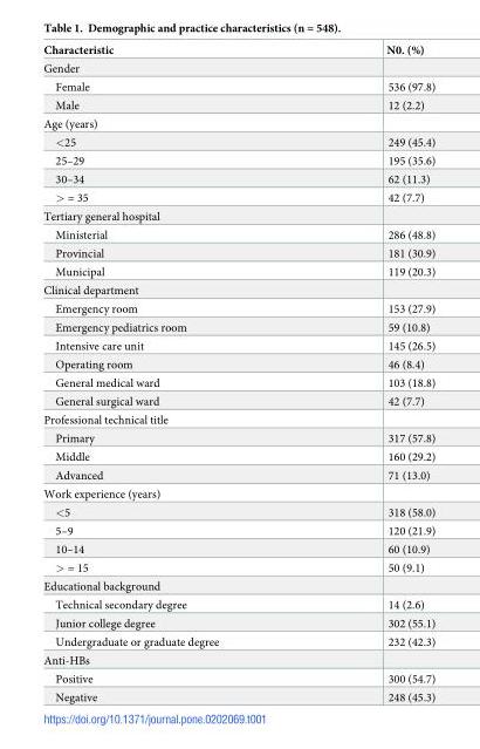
<table><thead><tr><td>Characteristic</td><td>N0. (%)</td></tr></thead><tbody><tr><td colspan="2">Gender</td></tr><tr><td>Female</td><td>536 (97.8)</td></tr><tr><td>Male</td><td>12 (2.2)</td></tr><tr><td colspan="2">Age (years)</td></tr><tr><td>&lt;25</td><td>249 (45.4)</td></tr><tr><td>25–29</td><td>195 (35.6)</td></tr><tr><td>30–34</td><td>62 (11.3)</td></tr><tr><td>&gt; = 35</td><td>42 (7.7)</td></tr><tr><td colspan="2">Tertiary general hospital</td></tr><tr><td>Ministerial</td><td>286 (48.8)</td></tr><tr><td>Provincial</td><td>181 (30.9)</td></tr><tr><td>Municipal</td><td>119 (20.3)</td></tr><tr><td colspan="2">Clinical department</td></tr><tr><td>Emergency room</td><td>153 (27.9)</td></tr><tr><td>Emergency pediatrics room</td><td>59 (10.8)</td></tr><tr><td>Intensive care unit</td><td>145 (26.5)</td></tr><tr><td>Operating room</td><td>46 (8.4)</td></tr><tr><td>General medical ward</td><td>103 (18.8)</td></tr><tr><td>General surgical ward</td><td>42 (7.7)</td></tr><tr><td colspan="2">Professional technical title</td></tr><tr><td>Primary</td><td>317 (57.8)</td></tr><tr><td>Middle</td><td>160 (29.2)</td></tr><tr><td>Advanced</td><td>71 (13.0)</td></tr><tr><td colspan="2">Work experience (years)</td></tr><tr><td>&lt;5</td><td>318 (58.0)</td></tr><tr><td>5–9</td><td>120 (21.9)</td></tr><tr><td>10–14</td><td>60 (10.9)</td></tr><tr><td>&gt; = 15</td><td>50 (9.1)</td></tr><tr><td colspan="2">Educational background</td></tr><tr><td>Technical secondary degree</td><td>14 (2.6)</td></tr><tr><td>Junior college degree</td><td>302 (55.1)</td></tr><tr><td>Undergraduate or graduate degree</td><td>232 (42.3)</td></tr><tr><td colspan="2">Anti-HBs</td></tr><tr><td>Positive</td><td>300 (54.7)</td></tr><tr><td>Negative</td><td>248 (45.3)</td></tr></tbody></table>